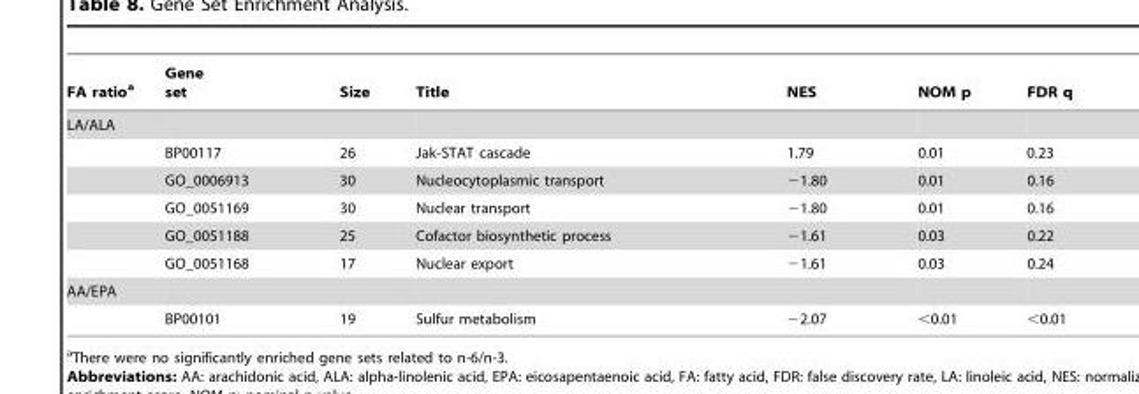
<table><thead><tr><td>FA ratio<sup>a</sup></td><td>Gene set</td><td>Size</td><td>Title</td><td>NES</td><td>NOM p</td><td>FDR q</td></tr></thead><tbody><tr><td colspan="7">LA/ALA</td></tr><tr><td></td><td>BP00117</td><td>26</td><td>Jak-STAT cascade</td><td>1.79</td><td>0.01</td><td>0.23</td></tr><tr><td></td><td>GO_0006913</td><td>30</td><td>Nucleocytoplasmic transport</td><td>−1.80</td><td>0.01</td><td>0.16</td></tr><tr><td></td><td>GO_0051169</td><td>30</td><td>Nuclear transport</td><td>−1.80</td><td>0.01</td><td>0.16</td></tr><tr><td></td><td>GO_0051188</td><td>25</td><td>Cofactor biosynthetic process</td><td>−1.61</td><td>0.03</td><td>0.22</td></tr><tr><td></td><td>GO_0051168</td><td>17</td><td>Nuclear export</td><td>−1.61</td><td>0.03</td><td>0.24</td></tr><tr><td colspan="7">AA/EPA</td></tr><tr><td></td><td>BP00101</td><td>19</td><td>Sulfur metabolism</td><td>−2.07</td><td>&lt;0.01</td><td>&lt;0.01</td></tr></tbody></table>